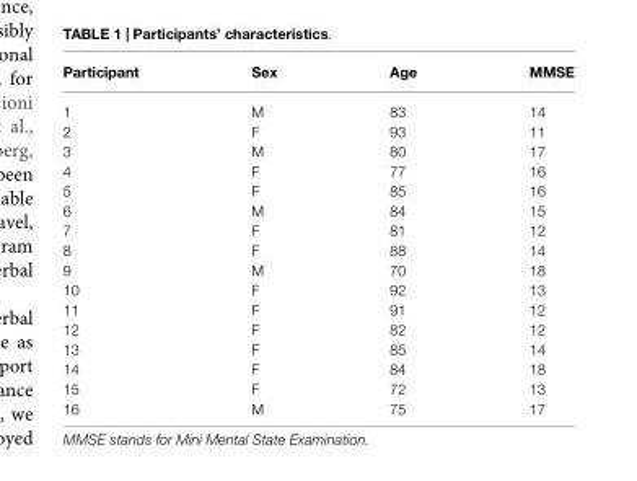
<table><thead><tr><td>Participant</td><td>Sex</td><td>Age</td><td>MMSE</td></tr></thead><tbody><tr><td>1</td><td>M</td><td>83</td><td>14</td></tr><tr><td>2</td><td>F</td><td>93</td><td>11</td></tr><tr><td>3</td><td>M</td><td>80</td><td>17</td></tr><tr><td>4</td><td>F</td><td>77</td><td>16</td></tr><tr><td>5</td><td>F</td><td>85</td><td>16</td></tr><tr><td>6</td><td>M</td><td>84</td><td>15</td></tr><tr><td>7</td><td>F</td><td>81</td><td>12</td></tr><tr><td>8</td><td>F</td><td>88</td><td>14</td></tr><tr><td>9</td><td>M</td><td>70</td><td>18</td></tr><tr><td>10</td><td>F</td><td>92</td><td>13</td></tr><tr><td>11</td><td>F</td><td>91</td><td>12</td></tr><tr><td>12</td><td>F</td><td>82</td><td>12</td></tr><tr><td>13</td><td>F</td><td>85</td><td>14</td></tr><tr><td>14</td><td>F</td><td>84</td><td>18</td></tr><tr><td>15</td><td>F</td><td>72</td><td>13</td></tr><tr><td>16</td><td>M</td><td>75</td><td>17</td></tr></tbody></table>